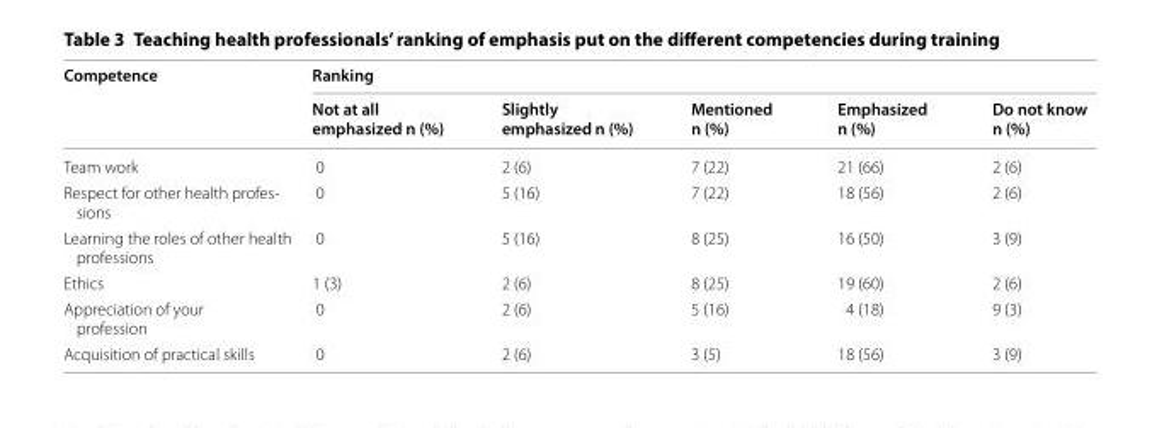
<table><thead><tr><td rowspan="2">Competence</td><td colspan="5">Ranking</td></tr><tr><td>Not at all emphasized n (%)</td><td>Slightly emphasized n (%)</td><td>Mentioned n (%)</td><td>Emphasized n (%)</td><td>Do not know n (%)</td></tr></thead><tbody><tr><td>Team work</td><td>0</td><td>2 (6)</td><td>7 (22)</td><td>21 (66)</td><td>2 (6)</td></tr><tr><td>Respect for other health profes‑ sions</td><td>0</td><td>5 (16)</td><td>7 (22)</td><td>18 (56)</td><td>2 (6)</td></tr><tr><td>Learning the roles of other health professions</td><td>0</td><td>5 (16)</td><td>8 (25)</td><td>16 (50)</td><td>3 (9)</td></tr><tr><td>Ethics</td><td>1 (3)</td><td>2 (6)</td><td>8 (25)</td><td>19 (60)</td><td>2 (6)</td></tr><tr><td>Appreciation of your profession</td><td>0</td><td>2 (6)</td><td>5 (16)</td><td>4 (18)</td><td>9 (3)</td></tr><tr><td>Acquisition of practical skills</td><td>0</td><td>2 (6)</td><td>3 (5)</td><td>18 (56)</td><td>3 (9)</td></tr></tbody></table>